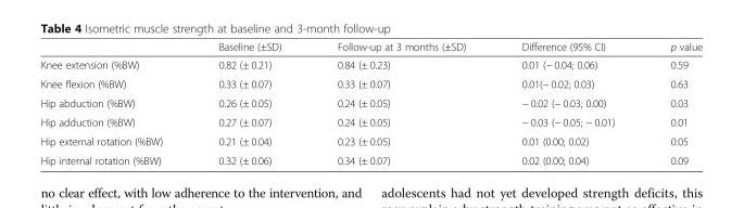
<table><thead><tr><td></td><td>Baseline (±SD)</td><td>Follow-up at 3 months (±SD)</td><td>Difference (95% CI)</td><td>p value</td></tr></thead><tbody><tr><td>Knee extension (%BW)</td><td>0.82 (± 0.21)</td><td>0.84 (± 0.23)</td><td>0.01 (− 0.04; 0.06)</td><td>0.59</td></tr><tr><td>Knee flexion (%BW)</td><td>0.33 (± 0.07)</td><td>0.33 (± 0.07)</td><td>0.01(− 0.02; 0.03)</td><td>0.63</td></tr><tr><td>Hip abduction (%BW)</td><td>0.26 (± 0.05)</td><td>0.24 (± 0.05)</td><td>− 0.02 (− 0.03; 0.00)</td><td>0.03</td></tr><tr><td>Hip adduction (%BW)</td><td>0.27 (± 0.07)</td><td>0.24 (± 0.05)</td><td>− 0.03 (− 0.05; − 0.01)</td><td>0.01</td></tr><tr><td>Hip external rotation (%BW)</td><td>0.21 (± 0.04)</td><td>0.23 (± 0.05)</td><td>0.01 (0.00; 0.02)</td><td>0.05</td></tr><tr><td>Hip internal rotation (%BW)</td><td>0.32 (± 0.06)</td><td>0.34 (± 0.07)</td><td>0.02 (0.00; 0.04)</td><td>0.09</td></tr></tbody></table>